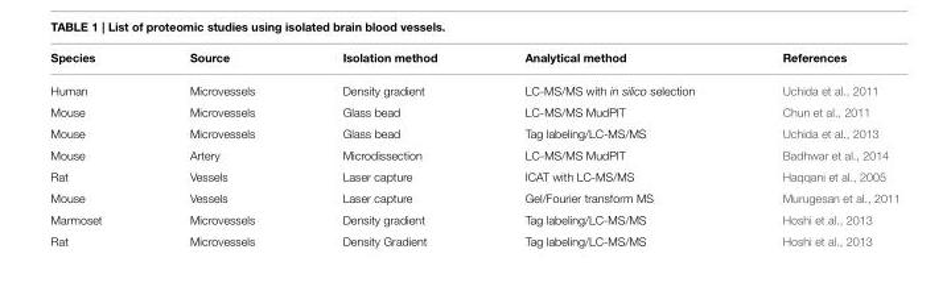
<table><thead><tr><td>Species</td><td>Source</td><td>Isolation method</td><td>Analytical method</td><td>References</td></tr></thead><tbody><tr><td>Human</td><td>Microvessels</td><td>Density gradient</td><td>LC-MS/MS with in silico selection</td><td>Uchida et al., 2011</td></tr><tr><td>Mouse</td><td>Microvessels</td><td>Glass bead</td><td>LC-MS/MS MudPIT</td><td>Chun et al., 2011</td></tr><tr><td>Mouse</td><td>Microvessels</td><td>Glass bead</td><td>Tag labeling/LC-MS/MS</td><td>Uchida et al., 2013</td></tr><tr><td>Mouse</td><td>Artery</td><td>Microdissection</td><td>LC-MS/MS MudPIT</td><td>Badhwar et al., 2014</td></tr><tr><td>Rat</td><td>Vessels</td><td>Laser capture</td><td>ICAT with LC-MS/MS</td><td>Haqqani et al., 2005</td></tr><tr><td>Mouse</td><td>Vessels</td><td>Laser capture</td><td>Gel/Fourier transform MS</td><td>Murugesan et al., 2011</td></tr><tr><td>Marmoset</td><td>Microvessels</td><td>Density gradient</td><td>Tag labeling/LC-MS/MS</td><td>Hoshi et al., 2013</td></tr><tr><td>Rat</td><td>Microvessels</td><td>Density Gradient</td><td>Tag labeling/LC-MS/MS</td><td>Hoshi et al., 2013</td></tr></tbody></table>